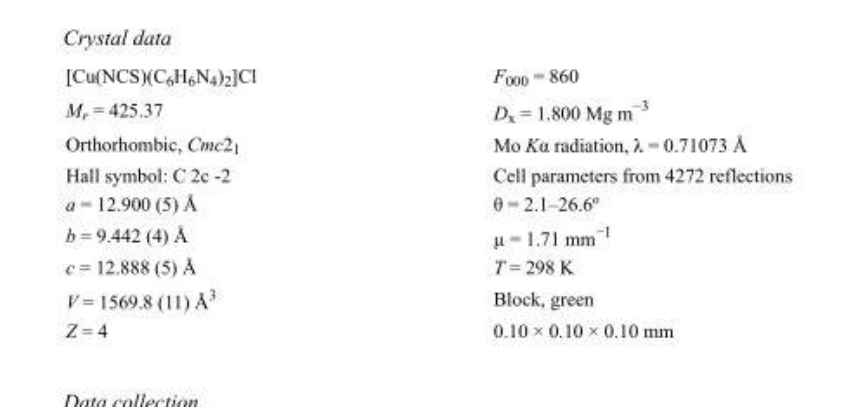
<table><tbody><tr><td>[Cu(NCS)(C<sub>6</sub>H<sub>6</sub>N<sub>4</sub>)<sub>2</sub>]Cl</td><td>F000 = 860</td></tr><tr><td>M<sub>r</sub> = 425.37</td><td>D<sub>x</sub> = 1.800 Mg m<sup>−3</sup></td></tr><tr><td>Orthorhombic, Cmc2<sub>1</sub></td><td>Mo Kα radiation, λ = 0.71073 Å</td></tr><tr><td>Hall symbol: C 2c -2</td><td>Cell parameters from 4272 reflections</td></tr><tr><td>a = 12.900 (5) Å</td><td>θ = 2.1–26.6º</td></tr><tr><td>b = 9.442 (4) Å</td><td>µ = 1.71 mm<sup>−1</sup></td></tr><tr><td>c = 12.888 (5) Å</td><td>T = 298 K</td></tr><tr><td>V = 1569.8 (11) Å<sup>3</sup></td><td>Block, green</td></tr><tr><td>Z = 4</td><td>0.10 × 0.10 × 0.10 mm</td></tr></tbody></table>